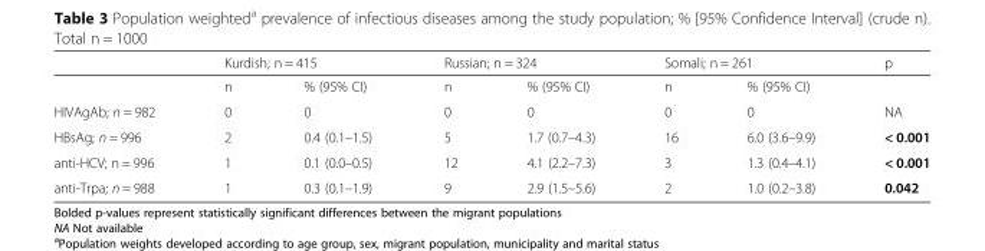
<table><thead><tr><td rowspan="2"></td><td colspan="2">Kurdish; n = 415</td><td colspan="2">Russian; n = 324</td><td colspan="2">Somali; n = 261</td><td rowspan="2">p</td></tr><tr><td>n</td><td>% (95% CI)</td><td>n</td><td>% (95% CI)</td><td>n</td><td>% (95% CI)</td></tr></thead><tbody><tr><td>HIVAgAb; n = 982</td><td>0</td><td>0</td><td>0</td><td>0</td><td>0</td><td>0</td><td>NA</td></tr><tr><td>HBsAg; n = 996</td><td>2</td><td>0.4 (0.1–1.5)</td><td>5</td><td>1.7 (0.7–4.3)</td><td>16</td><td>6.0 (3.6–9.9)</td><td>&lt; 0.001</td></tr><tr><td>anti-HCV; n = 996</td><td>1</td><td>0.1 (0.0–0.5)</td><td>12</td><td>4.1 (2.2–7.3)</td><td>3</td><td>1.3 (0.4–4.1)</td><td>&lt; 0.001</td></tr><tr><td>anti-Trpa; n = 988</td><td>1</td><td>0.3 (0.1–1.9)</td><td>9</td><td>2.9 (1.5–5.6)</td><td>2</td><td>1.0 (0.2–3.8)</td><td>0.042</td></tr></tbody></table>